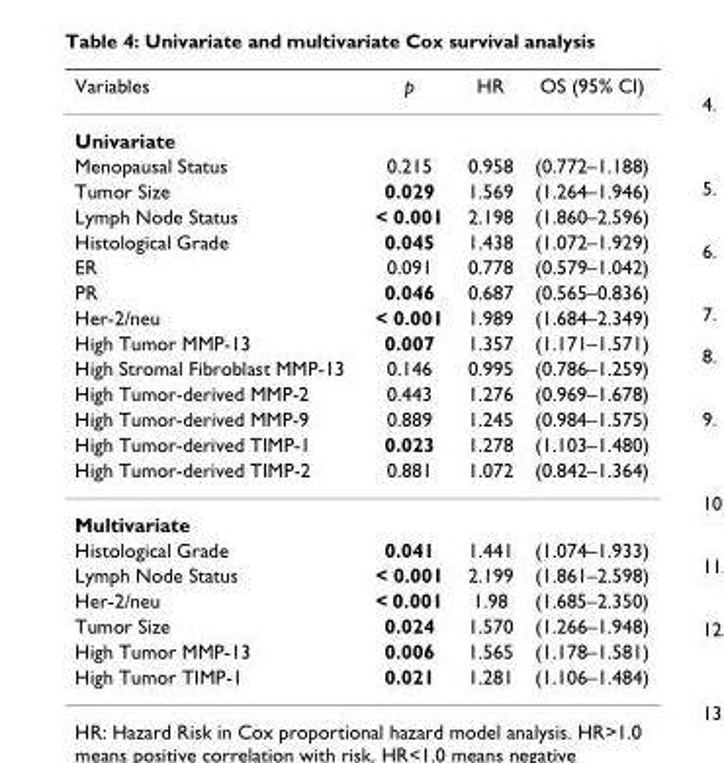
<table><thead><tr><td>Variables</td><td>p</td><td>HR</td><td>OS (95% CI)</td></tr></thead><tbody><tr><td colspan="4">Univariate</td></tr><tr><td>Menopausal Status</td><td>0.215</td><td>0.958</td><td>(0.772–1.188)</td></tr><tr><td>Tumor Size</td><td>0.029</td><td>1.569</td><td>(1.264–1.946)</td></tr><tr><td>Lymph Node Status</td><td>&lt; 0.001</td><td>2.198</td><td>(1.860–2.596)</td></tr><tr><td>Histological Grade</td><td>0.045</td><td>1.438</td><td>(1.072–1.929)</td></tr><tr><td>ER</td><td>0.091</td><td>0.778</td><td>(0.579–1.042)</td></tr><tr><td>PR</td><td>0.046</td><td>0.687</td><td>(0.565–0.836)</td></tr><tr><td>Her-2/neu</td><td>&lt; 0.001</td><td>1.989</td><td>(1.684–2.349)</td></tr><tr><td>High Tumor MMP-13</td><td>0.007</td><td>1.357</td><td>(1.171–1.571)</td></tr><tr><td>High Stromal Fibroblast MMP-13</td><td>0.146</td><td>0.995</td><td>(0.786–1.259)</td></tr><tr><td>High Tumor-derived MMP-2</td><td>0.443</td><td>1.276</td><td>(0.969–1.678)</td></tr><tr><td>High Tumor-derived MMP-9</td><td>0.889</td><td>1.245</td><td>(0.984–1.575)</td></tr><tr><td>High Tumor-derived TIMP-1</td><td>0.023</td><td>1.278</td><td>(1.103–1.480)</td></tr><tr><td>High Tumor-derived TIMP-2</td><td>0.881</td><td>1.072</td><td>(0.842–1.364)</td></tr><tr><td colspan="4">Multivariate</td></tr><tr><td>Histological Grade</td><td>0.041</td><td>1.441</td><td>(1.074–1.933)</td></tr><tr><td>Lymph Node Status</td><td>&lt; 0.001</td><td>2.199</td><td>(1.861–2.598)</td></tr><tr><td>Her-2/neu</td><td>&lt; 0.001</td><td>1.98</td><td>(1.685–2.350)</td></tr><tr><td>Tumor Size</td><td>0.024</td><td>1.570</td><td>(1.266–1.948)</td></tr><tr><td>High Tumor MMP-13</td><td>0.006</td><td>1.565</td><td>(1.178–1.581)</td></tr><tr><td>High Tumor TIMP-1</td><td>0.021</td><td>1.281</td><td>(1.106–1.484)</td></tr></tbody></table>